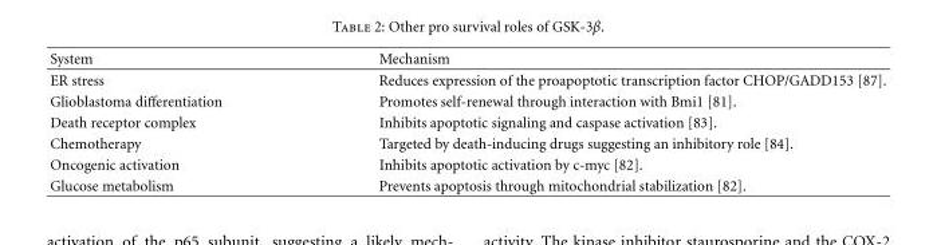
<table><thead><tr><td>System</td><td>Mechanism</td></tr></thead><tbody><tr><td>ER stress</td><td>Reduces expression of the proapoptotic transcription factor CHOP/GADD153 [87].</td></tr><tr><td>Glioblastoma differentiation</td><td>Promotes self-renewal through interaction with Bmi1 [81].</td></tr><tr><td>Death receptor complex</td><td>Inhibits apoptotic signaling and caspase activation [83].</td></tr><tr><td>Chemotherapy</td><td>Targeted by death-inducing drugs suggesting an inhibitory role [84].</td></tr><tr><td>Oncogenic activation</td><td>Inhibits apoptotic activation by c-myc [82].</td></tr><tr><td>Glucose metabolism</td><td>Prevents apoptosis through mitochondrial stabilization [82].</td></tr></tbody></table>